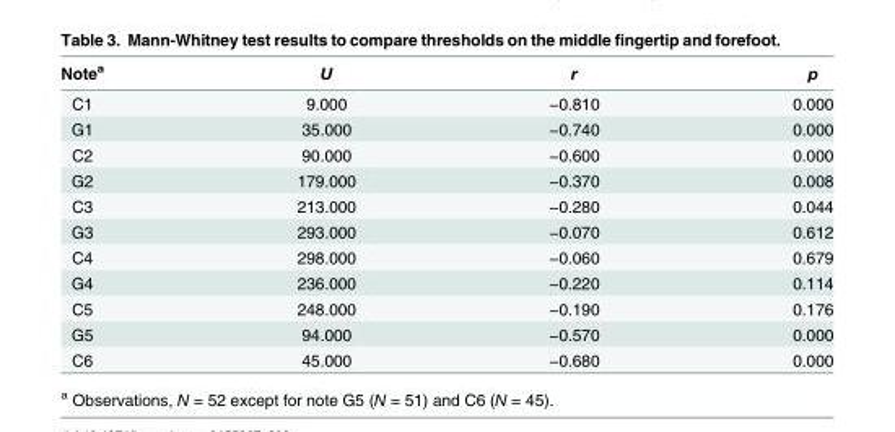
<table><thead><tr><td>Note<sup>a</sup></td><td>U</td><td>r</td><td>p</td></tr></thead><tbody><tr><td>C1</td><td>9.000</td><td>−0.810</td><td>0.000</td></tr><tr><td>G1</td><td>35.000</td><td>−0.740</td><td>0.000</td></tr><tr><td>C2</td><td>90.000</td><td>−0.600</td><td>0.000</td></tr><tr><td>G2</td><td>179.000</td><td>−0.370</td><td>0.008</td></tr><tr><td>C3</td><td>213.000</td><td>−0.280</td><td>0.044</td></tr><tr><td>G3</td><td>293.000</td><td>−0.070</td><td>0.612</td></tr><tr><td>C4</td><td>298.000</td><td>−0.060</td><td>0.679</td></tr><tr><td>G4</td><td>236.000</td><td>−0.220</td><td>0.114</td></tr><tr><td>C5</td><td>248.000</td><td>−0.190</td><td>0.176</td></tr><tr><td>G5</td><td>94.000</td><td>−0.570</td><td>0.000</td></tr><tr><td>C6</td><td>45.000</td><td>−0.680</td><td>0.000</td></tr></tbody></table>